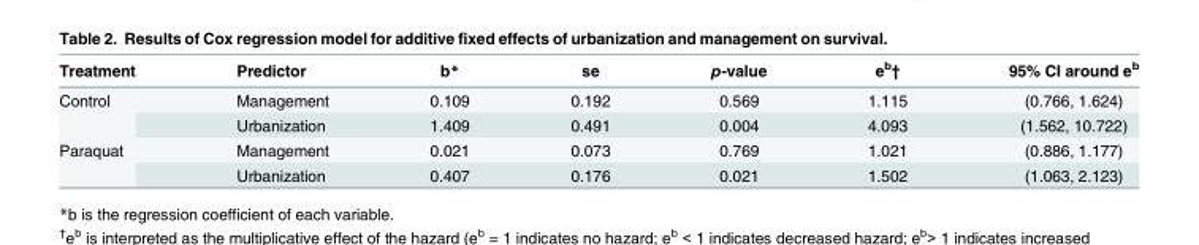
<table><thead><tr><td>Treatment</td><td>Predictor</td><td>b*</td><td>se</td><td>p-value</td><td>e<sup>b</sup>†</td><td>95% CI around e<sup>b</sup></td></tr></thead><tbody><tr><td rowspan="2">Control</td><td>Management</td><td>0.109</td><td>0.192</td><td>0.569</td><td>1.115</td><td>(0.766, 1.624)</td></tr><tr><td>Urbanization</td><td>1.409</td><td>0.491</td><td>0.004</td><td>4.093</td><td>(1.562, 10.722)</td></tr><tr><td rowspan="2">Paraquat</td><td>Management</td><td>0.021</td><td>0.073</td><td>0.769</td><td>1.021</td><td>(0.886, 1.177)</td></tr><tr><td>Urbanization</td><td>0.407</td><td>0.176</td><td>0.021</td><td>1.502</td><td>(1.063, 2.123)</td></tr></tbody></table>